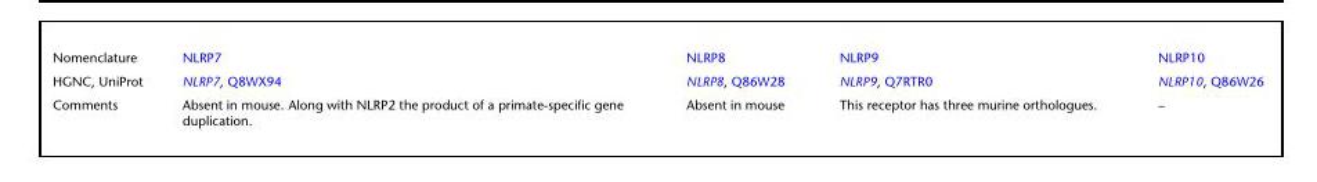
<table><tbody><tr><td>Nomenclature</td><td>NLRP7</td><td>NLRP8</td><td>NLRP9</td><td>NLRP10</td></tr><tr><td>HGNC, UniProt</td><td>NLRP7, Q8WX94</td><td>NLRP8, Q86W28</td><td>NLRP9, Q7RTR0</td><td>NLRP10, Q86W26</td></tr><tr><td>Comments</td><td>Absent in mouse. Along with NLRP2 the product of a primate-specific gene duplication.</td><td>Absent in mouse</td><td>This receptor has three murine orthologues.</td><td>–</td></tr></tbody></table>